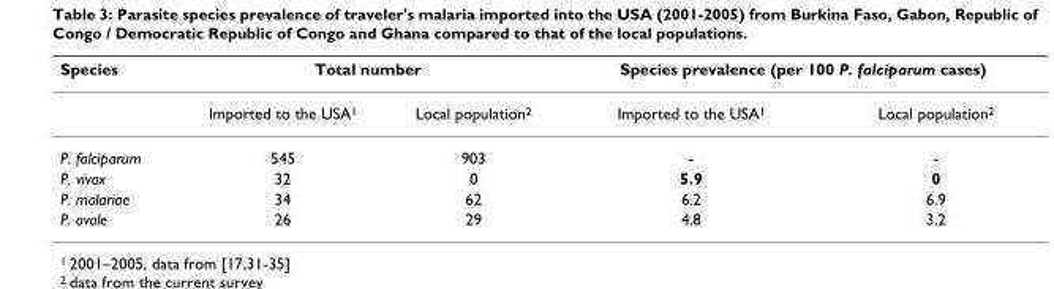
<table><thead><tr><td rowspan="2">Species</td><td colspan="2">Total number</td><td colspan="2">Species prevalence (per 100 P. falciparum cases)</td></tr><tr><td>Imported to the USA<sup>1</sup></td><td>Local population<sup>2</sup></td><td>Imported to the USA<sup>1</sup></td><td>Local population<sup>2</sup></td></tr></thead><tbody><tr><td>P. falciparum</td><td>545</td><td>903</td><td>-</td><td>-</td></tr><tr><td>P. vivax</td><td>32</td><td>0</td><td>5.9</td><td>0</td></tr><tr><td>P. malariae</td><td>34</td><td>62</td><td>6.2</td><td>6.9</td></tr><tr><td>P. ovale</td><td>26</td><td>29</td><td>4.8</td><td>3.2</td></tr></tbody></table>